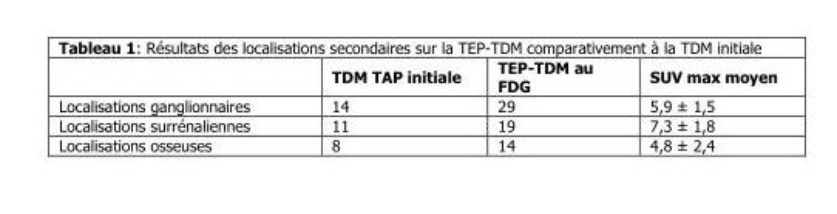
<table><thead><tr><td></td><td>TDM TAP initiale</td><td>TEP-TDM au FDG</td><td>SUV max moyen</td></tr></thead><tbody><tr><td>Localisations ganglionnaires</td><td>14</td><td>29</td><td>5,9 ± 1,5</td></tr><tr><td>Localisations surrénaliennes</td><td>11</td><td>19</td><td>7,3 ± 1,8</td></tr><tr><td>Localisations osseuses</td><td>8</td><td>14</td><td>4,8 ± 2,4</td></tr></tbody></table>